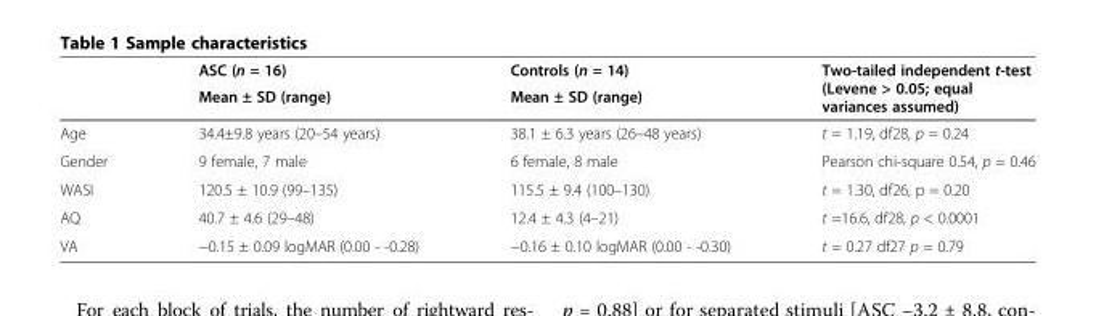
<table><thead><tr><td rowspan="2"></td><td rowspan="2">ASC (n = 16) Mean ± SD (range)</td><td rowspan="2">Controls (n = 14) Mean ± SD (range)</td><td rowspan="2">Two-tailed independent t-test (Levene &gt; 0.05; equal variances assumed)</td></tr><tr></tr></thead><tbody><tr><td>Age</td><td>34.4±9.8 years (20–54 years)</td><td>38.1 ± 6.3 years (26–48 years)</td><td>t = 1.19, df28, p = 0.24</td></tr><tr><td>Gender</td><td>9 female, 7 male</td><td>6 female, 8 male</td><td>Pearson chi-square 0.54, p = 0.46</td></tr><tr><td>WASI</td><td>120.5 ± 10.9 (99–135)</td><td>115.5 ± 9.4 (100–130)</td><td>t = 1.30, df26, p = 0.20</td></tr><tr><td>AQ</td><td>40.7 ± 4.6 (29–48)</td><td>12.4 ± 4.3 (4–21)</td><td>t =16.6, df28, p &lt; 0.0001</td></tr><tr><td>VA</td><td>−0.15 ± 0.09 logMAR (0.00 - -0.28)</td><td>−0.16 ± 0.10 logMAR (0.00 - -0.30)</td><td>t = 0.27 df27 p = 0.79</td></tr></tbody></table>